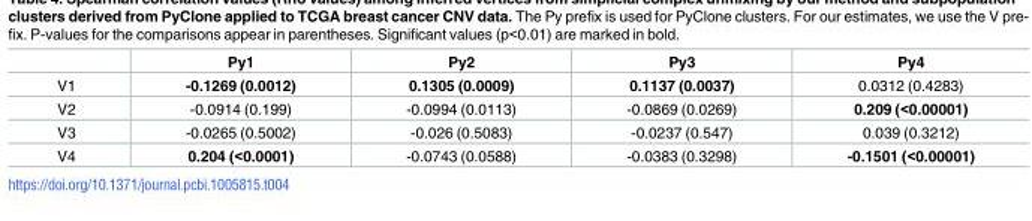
<table><thead><tr><td></td><td>Py1</td><td>Py2</td><td>Py3</td><td>Py4</td></tr></thead><tbody><tr><td>V1</td><td>-0.1269 (0.0012)</td><td>0.1305 (0.0009)</td><td>0.1137 (0.0037)</td><td>0.0312 (0.4283)</td></tr><tr><td>V2</td><td>-0.0914 (0.199)</td><td>-0.0994 (0.0113)</td><td>-0.0869 (0.0269)</td><td>0.209 (&lt;0.00001)</td></tr><tr><td>V3</td><td>-0.0265 (0.5002)</td><td>-0.026 (0.5083)</td><td>-0.0237 (0.547)</td><td>0.039 (0.3212)</td></tr><tr><td>V4</td><td>0.204 (&lt;0.0001)</td><td>-0.0743 (0.0588)</td><td>-0.0383 (0.3298)</td><td>-0.1501 (&lt;0.00001)</td></tr></tbody></table>